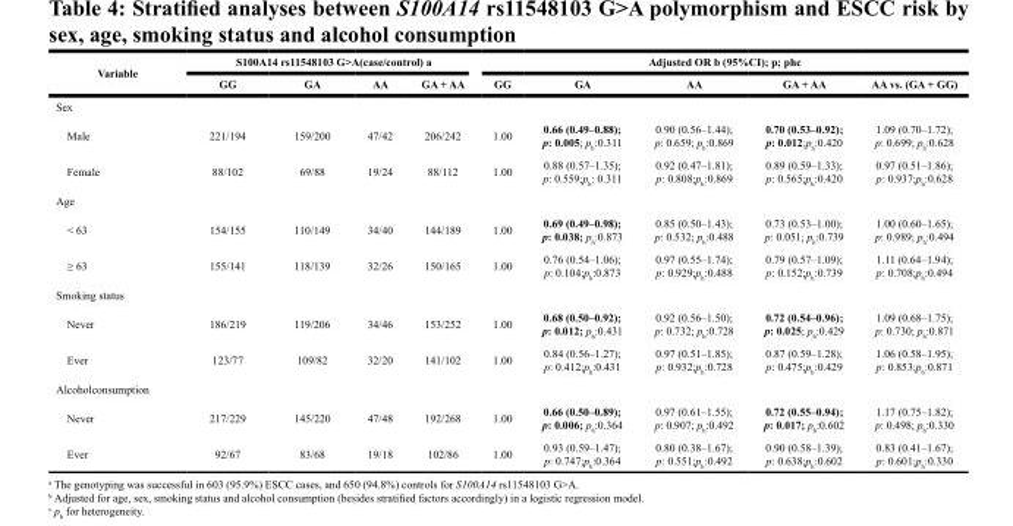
<table><thead><tr><td rowspan="2">Variable</td><td colspan="4">S100A14 rs11548103 G&gt;A(case/control) a</td><td colspan="5">Adjusted OR b (95%CI); p; phc</td></tr><tr><td>GG</td><td>GA</td><td>AA</td><td>GA + AA</td><td>GG</td><td>GA</td><td>AA</td><td>GA + AA</td><td>AA vs. (GA + GG)</td></tr></thead><tbody><tr><td colspan="10">Sex</td></tr><tr><td>Male</td><td>221/194</td><td>159/200</td><td>47/42</td><td>206/242</td><td>1.00</td><td>0.66 (0.49–0.88); p: 0.005; p<sub>h</sub>:0.311</td><td>0.90 (0.56–1.44); p: 0.659; p<sub>h</sub>:0.869</td><td>0.70 (0.53–0.92); p: 0.012;p<sub>h</sub>:0.420</td><td>1.09 (0.70–1.72); p: 0.699; p<sub>h</sub>:0.628</td></tr><tr><td>Female</td><td>88/102</td><td>69/88</td><td>19/24</td><td>88/112</td><td>1.00</td><td>0.88 (0.57–1.35); p: 0.559;p<sub>h</sub>: 0.311</td><td>0.92 (0.47–1.81); p: 0.808;p<sub>h</sub>:0.869</td><td>0.89 (0.59–1.33); p: 0.565;p<sub>h</sub>:0.420</td><td>0.97 (0.51–1.86); p: 0.937;p<sub>h</sub>:0.628</td></tr><tr><td colspan="10">Age</td></tr><tr><td>&lt; 63</td><td>154/155</td><td>110/149</td><td>34/40</td><td>144/189</td><td>1.00</td><td>0.69 (0.49–0.98); p: 0.038; p<sub>h</sub>:0.873</td><td>0.85 (0.50–1.43); p: 0.532; p<sub>h</sub>:0.488</td><td>0.73 (0.53–1.00); p: 0.051; p<sub>h</sub>:0.739</td><td>1.00 (0.60–1.65); p: 0.989; p<sub>h</sub>:0.494</td></tr><tr><td>≥ 63</td><td>155/141</td><td>118/139</td><td>32/26</td><td>150/165</td><td>1.00</td><td>0.76 (0.54–1.06); p: 0.104;p<sub>h</sub>:0.873</td><td>0.97 (0.55–1.74); p: 0.929;p<sub>h</sub>:0.488</td><td>0.79 (0.57–1.09); p: 0.152;p<sub>h</sub>:0.739</td><td>1.11 (0.64–1.94); p: 0.708;p<sub>h</sub>:0.494</td></tr><tr><td colspan="10">Smoking status</td></tr><tr><td>Never</td><td>186/219</td><td>119/206</td><td>34/46</td><td>153/252</td><td>1.00</td><td>0.68 (0.50–0.92); p: 0.012; p<sub>h</sub>:0.431</td><td>0.92 (0.56–1.50); p: 0.732; p<sub>h</sub>:0.728</td><td>0.72 (0.54–0.96); p: 0.025; p<sub>h</sub>:0.429</td><td>1.09 (0.68–1.75); p: 0.730; p<sub>h</sub>:0.871</td></tr><tr><td>Ever</td><td>123/77</td><td>109/82</td><td>32/20</td><td>141/102</td><td>1.00</td><td>0.84 (0.56–1.27); p: 0.412;p<sub>h</sub>:0.431</td><td>0.97 (0.51–1.85); p: 0.932;p<sub>h</sub>:0.728</td><td>0.87 (0.59–1.28); p: 0.475;p<sub>h</sub>:0.429</td><td>1.06 (0.58–1.95); p: 0.853;p<sub>h</sub>:0.871</td></tr><tr><td colspan="10">Alcoholconsumption</td></tr><tr><td>Never</td><td>217/229</td><td>145/220</td><td>47/48</td><td>192/268</td><td>1.00</td><td>0.66 (0.50–0.89); p: 0.006; p<sub>h</sub>:0.364</td><td>0.97 (0.61–1.55); p: 0.907; p<sub>h</sub>:0.492</td><td>0.72 (0.55–0.94); p: 0.017; p<sub>h</sub>:0.602</td><td>1.17 (0.75–1.82); p: 0.498; p<sub>h</sub>:0.330</td></tr><tr><td>Ever</td><td>92/67</td><td>83/68</td><td>19/18</td><td>102/86</td><td>1.00</td><td>0.93 (0.59–1.47); p: 0.747;p<sub>h</sub>:0.364</td><td>0.80 (0.38–1.67); p: 0.551;p<sub>h</sub>:0.492</td><td>0.90 (0.58–1.39); p: 0.638;p<sub>h</sub>:0.602</td><td>0.83 (0.41–1.67); p: 0.601;p<sub>h</sub>:0.330</td></tr></tbody></table>